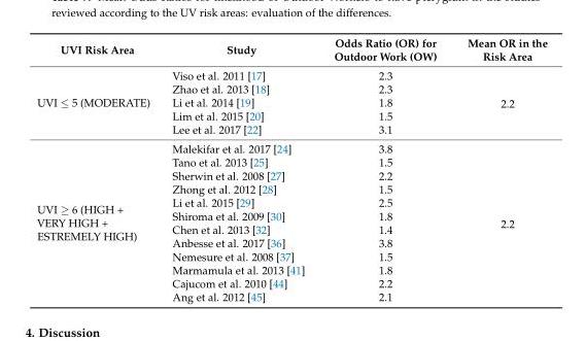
<table><thead><tr><td>UVI Risk Area</td><td>Study</td><td>Odds Ratio (OR) for Outdoor Work (OW)</td><td>Mean OR in the Risk Area</td></tr></thead><tbody><tr><td rowspan="5">UVI ≤ 5 (MODERATE)</td><td>Viso et al. 2011 [17]</td><td>2.3</td><td rowspan="5">2.2</td></tr><tr><td>Zhao et al. 2013 [18]</td><td>2.3</td></tr><tr><td>Li et al. 2014 [19]</td><td>1.8</td></tr><tr><td>Lim et al. 2015 [20]</td><td>1.5</td></tr><tr><td>Lee et al. 2017 [22]</td><td>3.1</td></tr><tr><td rowspan="12">UVI ≥ 6 (HIGH + VERY HIGH + ESTREMELY HIGH)</td><td>Malekifar et al. 2017 [24]</td><td>3.8</td><td rowspan="12">2.2</td></tr><tr><td>Tano et al. 2013 [25]</td><td>1.5</td></tr><tr><td>Sherwin et al. 2008 [27]</td><td>2.2</td></tr><tr><td>Zhong et al. 2012 [28]</td><td>1.5</td></tr><tr><td>Li et al. 2015 [29]</td><td>2.5</td></tr><tr><td>Shiroma et al. 2009 [30]</td><td>1.8</td></tr><tr><td>Chen et al. 2013 [32]</td><td>1.4</td></tr><tr><td>Anbesse et al. 2017 [36]</td><td>3.8</td></tr><tr><td>Nemesure et al. 2008 [37]</td><td>1.5</td></tr><tr><td>Marmamula et al. 2013 [41]</td><td>1.8</td></tr><tr><td>Cajucom et al. 2010 [44]</td><td>2.2</td></tr><tr><td>Ang et al. 2012 [45]</td><td>2.1</td></tr></tbody></table>